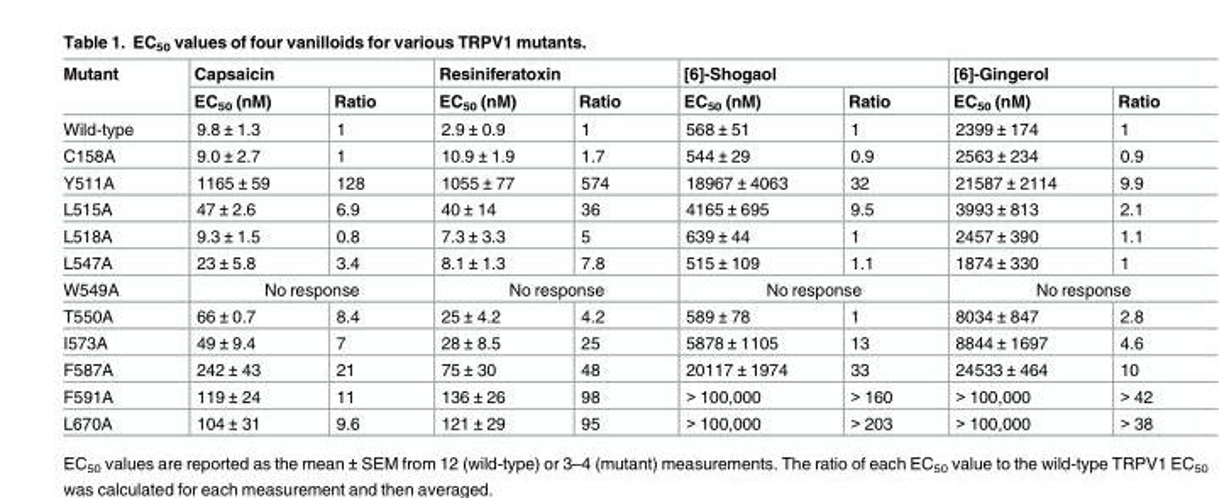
<table><thead><tr><td rowspan="2">Mutant</td><td colspan="2">Capsaicin</td><td colspan="2">Resiniferatoxin</td><td colspan="2">[6]-Shogaol</td><td colspan="2">[6]-Gingerol</td></tr><tr><td>EC<sub>50</sub> (nM)</td><td>Ratio</td><td>EC<sub>50</sub> (nM)</td><td>Ratio</td><td>EC<sub>50</sub> (nM)</td><td>Ratio</td><td>EC<sub>50</sub> (nM)</td><td>Ratio</td></tr></thead><tbody><tr><td>Wild-type</td><td>9.8 ± 1.3</td><td>1</td><td>2.9 ± 0.9</td><td>1</td><td>568 ± 51</td><td>1</td><td>2399 ± 174</td><td>1</td></tr><tr><td>C158A</td><td>9.0 ± 2.7</td><td>1</td><td>10.9 ± 1.9</td><td>1.7</td><td>544 ± 29</td><td>0.9</td><td>2563 ± 234</td><td>0.9</td></tr><tr><td>Y511A</td><td>1165 ± 59</td><td>128</td><td>1055 ± 77</td><td>574</td><td>18967 ± 4063</td><td>32</td><td>21587 ± 2114</td><td>9.9</td></tr><tr><td>L515A</td><td>47 ± 2.6</td><td>6.9</td><td>40 ± 14</td><td>36</td><td>4165 ± 695</td><td>9.5</td><td>3993 ± 813</td><td>2.1</td></tr><tr><td>L518A</td><td>9.3 ± 1.5</td><td>0.8</td><td>7.3 ± 3.3</td><td>5</td><td>639 ± 44</td><td>1</td><td>2457 ± 390</td><td>1.1</td></tr><tr><td>L547A</td><td>23 ± 5.8</td><td>3.4</td><td>8.1 ± 1.3</td><td>7.8</td><td>515 ± 109</td><td>1.1</td><td>1874 ± 330</td><td>1</td></tr><tr><td>W549A</td><td colspan="2">No response</td><td colspan="2">No response</td><td colspan="2">No response</td><td colspan="2">No response</td></tr><tr><td>T550A</td><td>66 ± 0.7</td><td>8.4</td><td>25 ± 4.2</td><td>4.2</td><td>589 ± 78</td><td>1</td><td>8034 ± 847</td><td>2.8</td></tr><tr><td>I573A</td><td>49 ± 9.4</td><td>7</td><td>28 ± 8.5</td><td>25</td><td>5878 ± 1105</td><td>13</td><td>8844 ± 1697</td><td>4.6</td></tr><tr><td>F587A</td><td>242 ± 43</td><td>21</td><td>75 ± 30</td><td>48</td><td>20117 ± 1974</td><td>33</td><td>24533 ± 464</td><td>10</td></tr><tr><td>F591A</td><td>119 ± 24</td><td>11</td><td>136 ± 26</td><td>98</td><td>&gt; 100,000</td><td>&gt; 160</td><td>&gt; 100,000</td><td>&gt; 42</td></tr><tr><td>L670A</td><td>104 ± 31</td><td>9.6</td><td>121 ± 29</td><td>95</td><td>&gt; 100,000</td><td>&gt; 203</td><td>&gt; 100,000</td><td>&gt; 38</td></tr></tbody></table>